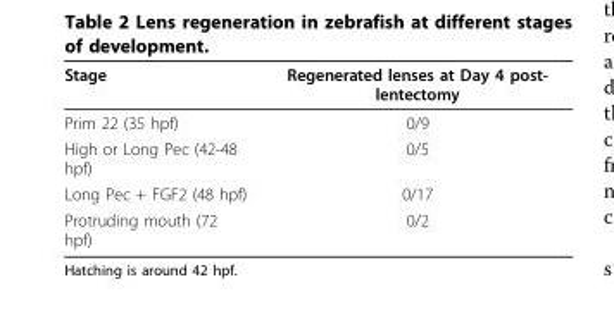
<table><thead><tr><td>Stage</td><td>Regenerated lenses at Day 4 post- lentectomy</td></tr></thead><tbody><tr><td>Prim 22 (35 hpf)</td><td>0/9</td></tr><tr><td>High or Long Pec (42-48 hpf)</td><td>0/5</td></tr><tr><td>Long Pec + FGF2 (48 hpf)</td><td>0/17</td></tr><tr><td>Protruding mouth (72 hpf)</td><td>0/2</td></tr></tbody></table>